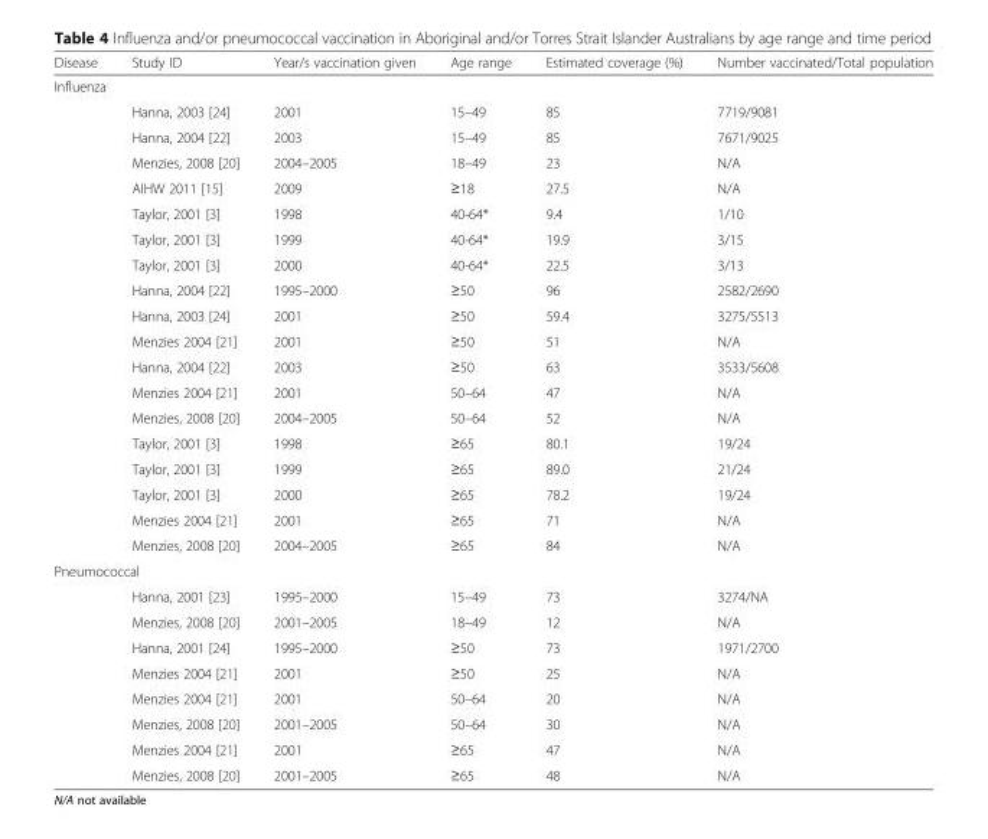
<table><thead><tr><td>Disease</td><td>Study ID</td><td>Year/s vaccination given</td><td>Age range</td><td>Estimated coverage (%)</td><td>Number vaccinated/Total population</td></tr></thead><tbody><tr><td colspan="6">Influenza</td></tr><tr><td rowspan="18"></td><td>Hanna, 2003 [24]</td><td>2001</td><td>15–49</td><td>85</td><td>7719/9081</td></tr><tr><td>Hanna, 2004 [22]</td><td>2003</td><td>15–49</td><td>85</td><td>7671/9025</td></tr><tr><td>Menzies, 2008 [20]</td><td>2004–2005</td><td>18–49</td><td>23</td><td>N/A</td></tr><tr><td>AIHW 2011 [15]</td><td>2009</td><td>≥18</td><td>27.5</td><td>N/A</td></tr><tr><td>Taylor, 2001 [3]</td><td>1998</td><td>40-64*</td><td>9.4</td><td>1/10</td></tr><tr><td>Taylor, 2001 [3]</td><td>1999</td><td>40-64*</td><td>19.9</td><td>3/15</td></tr><tr><td>Taylor, 2001 [3]</td><td>2000</td><td>40-64*</td><td>22.5</td><td>3/13</td></tr><tr><td>Hanna, 2004 [22]</td><td>1995–2000</td><td>≥50</td><td>96</td><td>2582/2690</td></tr><tr><td>Hanna, 2003 [24]</td><td>2001</td><td>≥50</td><td>59.4</td><td>3275/5513</td></tr><tr><td>Menzies 2004 [21]</td><td>2001</td><td>≥50</td><td>51</td><td>N/A</td></tr><tr><td>Hanna, 2004 [22]</td><td>2003</td><td>≥50</td><td>63</td><td>3533/5608</td></tr><tr><td>Menzies 2004 [21]</td><td>2001</td><td>50–64</td><td>47</td><td>N/A</td></tr><tr><td>Menzies, 2008 [20]</td><td>2004–2005</td><td>50–64</td><td>52</td><td>N/A</td></tr><tr><td>Taylor, 2001 [3]</td><td>1998</td><td>≥65</td><td>80.1</td><td>19/24</td></tr><tr><td>Taylor, 2001 [3]</td><td>1999</td><td>≥65</td><td>89.0</td><td>21/24</td></tr><tr><td>Taylor, 2001 [3]</td><td>2000</td><td>≥65</td><td>78.2</td><td>19/24</td></tr><tr><td>Menzies 2004 [21]</td><td>2001</td><td>≥65</td><td>71</td><td>N/A</td></tr><tr><td>Menzies, 2008 [20]</td><td>2004–2005</td><td>≥65</td><td>84</td><td>N/A</td></tr><tr><td colspan="6">Pneumococcal</td></tr><tr><td rowspan="8"></td><td>Hanna, 2001 [23]</td><td>1995–2000</td><td>15–49</td><td>73</td><td>3274/NA</td></tr><tr><td>Menzies, 2008 [20]</td><td>2001–2005</td><td>18–49</td><td>12</td><td>N/A</td></tr><tr><td>Hanna, 2001 [24]</td><td>1995–2000</td><td>≥50</td><td>73</td><td>1971/2700</td></tr><tr><td>Menzies 2004 [21]</td><td>2001</td><td>≥50</td><td>25</td><td>N/A</td></tr><tr><td>Menzies 2004 [21]</td><td>2001</td><td>50–64</td><td>20</td><td>N/A</td></tr><tr><td>Menzies, 2008 [20]</td><td>2001–2005</td><td>50–64</td><td>30</td><td>N/A</td></tr><tr><td>Menzies 2004 [21]</td><td>2001</td><td>≥65</td><td>47</td><td>N/A</td></tr><tr><td>Menzies, 2008 [20]</td><td>2001–2005</td><td>≥65</td><td>48</td><td>N/A</td></tr></tbody></table>